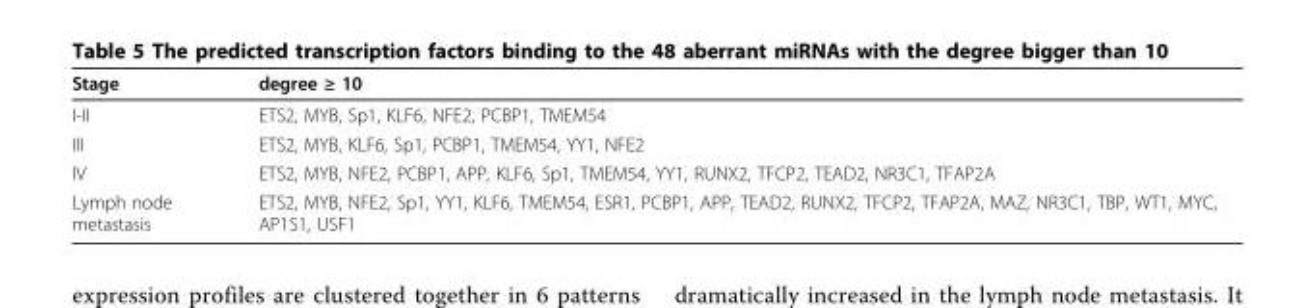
<table><thead><tr><td>Stage</td><td>degree ≥ 10</td></tr></thead><tbody><tr><td>I-II</td><td>ETS2, MYB, Sp1, KLF6, NFE2, PCBP1, TMEM54</td></tr><tr><td>III</td><td>ETS2, MYB, KLF6, Sp1, PCBP1, TMEM54, YY1, NFE2</td></tr><tr><td>IV</td><td>ETS2, MYB, NFE2, PCBP1, APP, KLF6, Sp1, TMEM54, YY1, RUNX2, TFCP2, TEAD2, NR3C1, TFAP2A</td></tr><tr><td>Lymph node metastasis</td><td>ETS2, MYB, NFE2, Sp1, YY1, KLF6, TMEM54, ESR1, PCBP1, APP, TEAD2, RUNX2, TFCP2, TFAP2A, MAZ, NR3C1, TBP, WT1, MYC, AP1S1, USF1</td></tr></tbody></table>